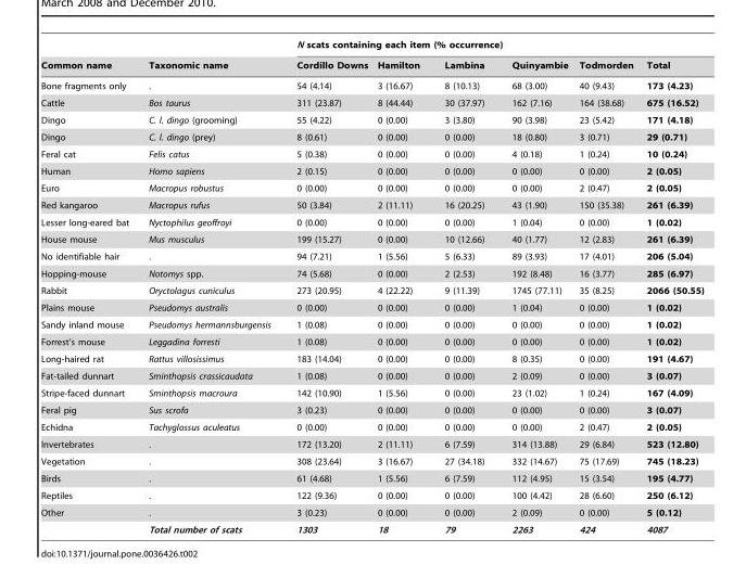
<table><thead><tr><td rowspan="2">Common name</td><td rowspan="2">Taxonomic name</td><td colspan="6">N scats containing each item (% occurrence)</td></tr><tr><td>Cordillo Downs</td><td>Hamilton</td><td>Lambina</td><td>Quinyambie</td><td>Todmorden</td><td>Total</td></tr></thead><tbody><tr><td>Bone fragments only</td><td>.</td><td>54 (4.14)</td><td>3 (16.67)</td><td>8 (10.13)</td><td>68 (3.00)</td><td>40 (9.43)</td><td>173 (4.23)</td></tr><tr><td>Cattle</td><td>Bos taurus</td><td>311 (23.87)</td><td>8 (44.44)</td><td>30 (37.97)</td><td>162 (7.16)</td><td>164 (38.68)</td><td>675 (16.52)</td></tr><tr><td>Dingo</td><td>C. l. dingo (grooming)</td><td>55 (4.22)</td><td>0 (0.00)</td><td>3 (3.80)</td><td>90 (3.98)</td><td>23 (5.42)</td><td>171 (4.18)</td></tr><tr><td>Dingo</td><td>C. l. dingo (prey)</td><td>8 (0.61)</td><td>0 (0.00)</td><td>0 (0.00)</td><td>18 (0.80)</td><td>3 (0.71)</td><td>29 (0.71)</td></tr><tr><td>Feral cat</td><td>Felis catus</td><td>5 (0.38)</td><td>0 (0.00)</td><td>0 (0.00)</td><td>4 (0.18)</td><td>1 (0.24)</td><td>10 (0.24)</td></tr><tr><td>Human</td><td>Homo sapiens</td><td>2 (0.15)</td><td>0 (0.00)</td><td>0 (0.00)</td><td>0 (0.00)</td><td>0 (0.00)</td><td>2 (0.05)</td></tr><tr><td>Euro</td><td>Macropus robustus</td><td>0 (0.00)</td><td>0 (0.00)</td><td>0 (0.00)</td><td>0 (0.00)</td><td>2 (0.47)</td><td>2 (0.05)</td></tr><tr><td>Red kangaroo</td><td>Macropus rufus</td><td>50 (3.84)</td><td>2 (11.11)</td><td>16 (20.25)</td><td>43 (1.90)</td><td>150 (35.38)</td><td>261 (6.39)</td></tr><tr><td>Lesser long-eared bat</td><td>Nyctophilus geoffroyi</td><td>0 (0.00)</td><td>0 (0.00)</td><td>0 (0.00)</td><td>1 (0.04)</td><td>0 (0.00)</td><td>1 (0.02)</td></tr><tr><td>House mouse</td><td>Mus musculus</td><td>199 (15.27)</td><td>0 (0.00)</td><td>10 (12.66)</td><td>40 (1.77)</td><td>12 (2.83)</td><td>261 (6.39)</td></tr><tr><td>No identifiable hair</td><td>.</td><td>94 (7.21)</td><td>1 (5.56)</td><td>5 (6.33)</td><td>89 (3.93)</td><td>17 (4.01)</td><td>206 (5.04)</td></tr><tr><td>Hopping-mouse</td><td>Notomys spp.</td><td>74 (5.68)</td><td>0 (0.00)</td><td>2 (2.53)</td><td>192 (8.48)</td><td>16 (3.77)</td><td>285 (6.97)</td></tr><tr><td>Rabbit</td><td>Oryctolagus cuniculus</td><td>273 (20.95)</td><td>4 (22.22)</td><td>9 (11.39)</td><td>1745 (77.11)</td><td>35 (8.25)</td><td>2066 (50.55)</td></tr><tr><td>Plains mouse</td><td>Pseudomys australis</td><td>0 (0.00)</td><td>0 (0.00)</td><td>0 (0.00)</td><td>1 (0.04)</td><td>0 (0.00)</td><td>1 (0.02)</td></tr><tr><td>Sandy inland mouse</td><td>Pseudomys hermannsburgensis</td><td>1 (0.08)</td><td>0 (0.00)</td><td>0 (0.00)</td><td>0 (0.00)</td><td>0 (0.00)</td><td>1 (0.02)</td></tr><tr><td>Forrest’s mouse</td><td>Leggadina forresti</td><td>1 (0.08)</td><td>0 (0.00)</td><td>0 (0.00)</td><td>0 (0.00)</td><td>0 (0.00)</td><td>1 (0.02)</td></tr><tr><td>Long-haired rat</td><td>Rattus villosissimus</td><td>183 (14.04)</td><td>0 (0.00)</td><td>0 (0.00)</td><td>8 (0.35)</td><td>0 (0.00)</td><td>191 (4.67)</td></tr><tr><td>Fat-tailed dunnart</td><td>Sminthopsis crassicaudata</td><td>1 (0.08)</td><td>0 (0.00)</td><td>0 (0.00)</td><td>2 (0.09)</td><td>0 (0.00)</td><td>3 (0.07)</td></tr><tr><td>Stripe-faced dunnart</td><td>Sminthopsis macroura</td><td>142 (10.90)</td><td>1 (5.56)</td><td>0 (0.00)</td><td>23 (1.02)</td><td>1 (0.24)</td><td>167 (4.09)</td></tr><tr><td>Feral pig</td><td>Sus scrofa</td><td>3 (0.23)</td><td>0 (0.00)</td><td>0 (0.00)</td><td>0 (0.00)</td><td>0 (0.00)</td><td>3 (0.07)</td></tr><tr><td>Echidna</td><td>Tachyglossus aculeatus</td><td>0 (0.00)</td><td>0 (0.00)</td><td>0 (0.00)</td><td>0 (0.00)</td><td>2 (0.47)</td><td>2 (0.05)</td></tr><tr><td>Invertebrates</td><td>.</td><td>172 (13.20)</td><td>2 (11.11)</td><td>6 (7.59)</td><td>314 (13.88)</td><td>29 (6.84)</td><td>523 (12.80)</td></tr><tr><td>Vegetation</td><td>.</td><td>308 (23.64)</td><td>3 (16.67)</td><td>27 (34.18)</td><td>332 (14.67)</td><td>75 (17.69)</td><td>745 (18.23)</td></tr><tr><td>Birds</td><td>.</td><td>61 (4.68)</td><td>1 (5.56)</td><td>6 (7.59)</td><td>112 (4.95)</td><td>15 (3.54)</td><td>195 (4.77)</td></tr><tr><td>Reptiles</td><td>.</td><td>122 (9.36)</td><td>0 (0.00)</td><td>0 (0.00)</td><td>100 (4.42)</td><td>28 (6.60)</td><td>250 (6.12)</td></tr><tr><td rowspan="2">Other</td><td>.</td><td>3 (0.23)</td><td>0 (0.00)</td><td>0 (0.00)</td><td>2 (0.09)</td><td>0 (0.00)</td><td>5 (0.12)</td></tr><tr><td>Total number of scats</td><td>1303</td><td>18</td><td>79</td><td>2263</td><td>424</td><td>4087</td></tr></tbody></table>